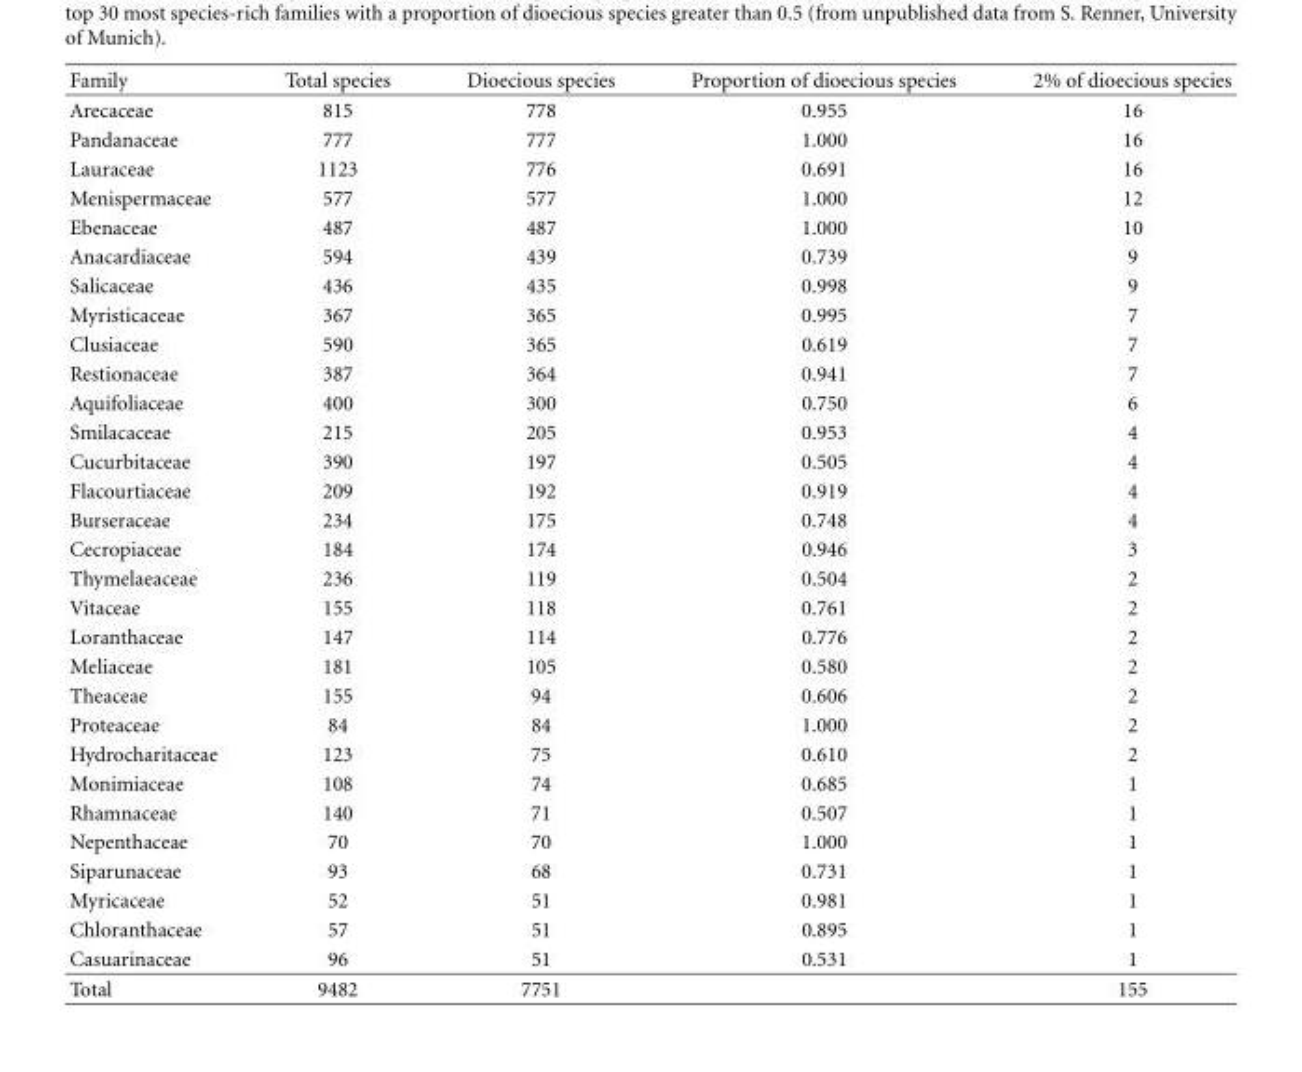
<table><thead><tr><td>Family</td><td>Total species</td><td>Dioecious species</td><td>Proportion of dioecious species</td><td>2% of dioecious species</td></tr></thead><tbody><tr><td>Arecaceae</td><td>815</td><td>778</td><td>0.955</td><td>16</td></tr><tr><td>Pandanaceae</td><td>777</td><td>777</td><td>1.000</td><td>16</td></tr><tr><td>Lauraceae</td><td>1123</td><td>776</td><td>0.691</td><td>16</td></tr><tr><td>Menispermaceae</td><td>577</td><td>577</td><td>1.000</td><td>12</td></tr><tr><td>Ebenaceae</td><td>487</td><td>487</td><td>1.000</td><td>10</td></tr><tr><td>Anacardiaceae</td><td>594</td><td>439</td><td>0.739</td><td>9</td></tr><tr><td>Salicaceae</td><td>436</td><td>435</td><td>0.998</td><td>9</td></tr><tr><td>Myristicaceae</td><td>367</td><td>365</td><td>0.995</td><td>7</td></tr><tr><td>Clusiaceae</td><td>590</td><td>365</td><td>0.619</td><td>7</td></tr><tr><td>Restionaceae</td><td>387</td><td>364</td><td>0.941</td><td>7</td></tr><tr><td>Aquifoliaceae</td><td>400</td><td>300</td><td>0.750</td><td>6</td></tr><tr><td>Smilacaceae</td><td>215</td><td>205</td><td>0.953</td><td>4</td></tr><tr><td>Cucurbitaceae</td><td>390</td><td>197</td><td>0.505</td><td>4</td></tr><tr><td>Flacourtiaceae</td><td>209</td><td>192</td><td>0.919</td><td>4</td></tr><tr><td>Burseraceae</td><td>234</td><td>175</td><td>0.748</td><td>4</td></tr><tr><td>Cecropiaceae</td><td>184</td><td>174</td><td>0.946</td><td>3</td></tr><tr><td>Thymelaeaceae</td><td>236</td><td>119</td><td>0.504</td><td>2</td></tr><tr><td>Vitaceae</td><td>155</td><td>118</td><td>0.761</td><td>2</td></tr><tr><td>Loranthaceae</td><td>147</td><td>114</td><td>0.776</td><td>2</td></tr><tr><td>Meliaceae</td><td>181</td><td>105</td><td>0.580</td><td>2</td></tr><tr><td>Theaceae</td><td>155</td><td>94</td><td>0.606</td><td>2</td></tr><tr><td>Proteaceae</td><td>84</td><td>84</td><td>1.000</td><td>2</td></tr><tr><td>Hydrocharitaceae</td><td>123</td><td>75</td><td>0.610</td><td>2</td></tr><tr><td>Monimiaceae</td><td>108</td><td>74</td><td>0.685</td><td>1</td></tr><tr><td>Rhamnaceae</td><td>140</td><td>71</td><td>0.507</td><td>1</td></tr><tr><td>Nepenthaceae</td><td>70</td><td>70</td><td>1.000</td><td>1</td></tr><tr><td>Siparunaceae</td><td>93</td><td>68</td><td>0.731</td><td>1</td></tr><tr><td>Myricaceae</td><td>52</td><td>51</td><td>0.981</td><td>1</td></tr><tr><td>Chloranthaceae</td><td>57</td><td>51</td><td>0.895</td><td>1</td></tr><tr><td>Casuarinaceae</td><td>96</td><td>51</td><td>0.531</td><td>1</td></tr><tr><td>Total</td><td>9482</td><td>7751</td><td></td><td>155</td></tr></tbody></table>